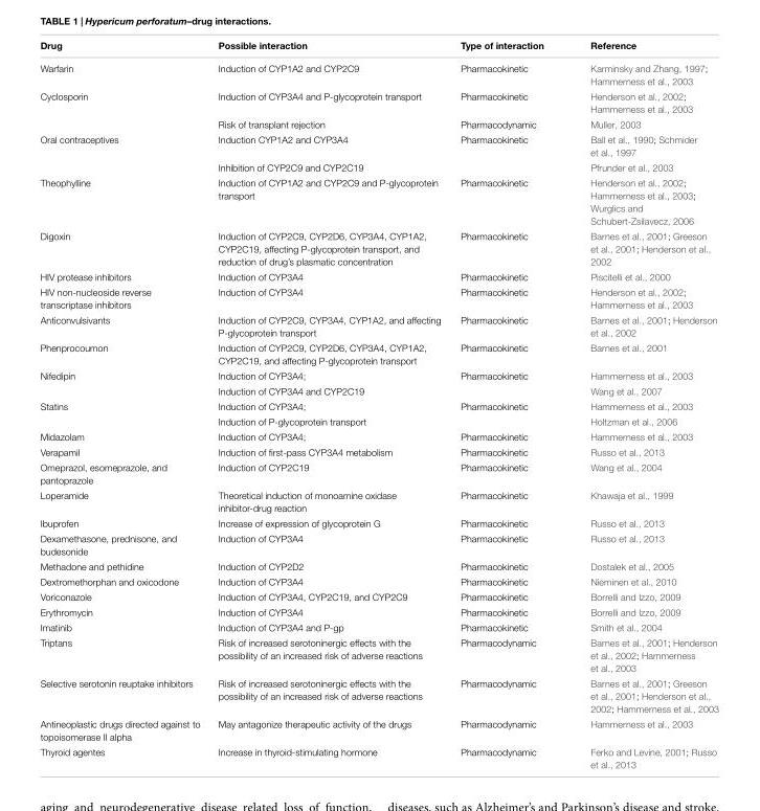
<table><thead><tr><td>Drug</td><td>Possible interaction</td><td>Type of interaction</td><td>Reference</td></tr></thead><tbody><tr><td>Warfarin</td><td>Induction of CYP1A2 and CYP2C9</td><td>Pharmacokinetic</td><td>Karminsky and Zhang, 1997; Hammerness et al., 2003</td></tr><tr><td rowspan="2">Cyclosporin</td><td>Induction of CYP3A4 and P-glycoprotein transport</td><td>Pharmacokinetic</td><td>Henderson et al., 2002; Hammerness et al., 2003</td></tr><tr><td>Risk of transplant rejection</td><td>Pharmacodynamic</td><td>Muller, 2003</td></tr><tr><td rowspan="2">Oral contraceptives</td><td>Induction CYP1A2 and CYP3A4</td><td>Pharmacokinetic</td><td>Ball et al., 1990; Schmider et al., 1997</td></tr><tr><td>Inhibition of CYP2C9 and CYP2C19</td><td></td><td>Pfrunder et al., 2003</td></tr><tr><td>Theophylline</td><td>Induction of CYP1A2 and CYP2C9 and P-glycoprotein transport</td><td>Pharmacokinetic</td><td>Henderson et al., 2002; Hammerness et al., 2003; Wurglics and Schubert-Zsilavecz, 2006</td></tr><tr><td>Digoxin</td><td>Induction of CYP2C9, CYP2D6, CYP3A4, CYP1A2, CYP2C19, affecting P-glycoprotein transport, and reduction of drug’s plasmatic concentration</td><td>Pharmacokinetic</td><td>Barnes et al., 2001; Greeson et al., 2001; Henderson et al., 2002</td></tr><tr><td>HIV protease inhibitors</td><td>Induction of CYP3A4</td><td>Pharmacokinetic</td><td>Piscitelli et al., 2000</td></tr><tr><td>HIV non-nucleoside reverse transcriptase inhibitors</td><td>Induction of CYP3A4</td><td>Pharmacokinetic</td><td>Henderson et al., 2002; Hammerness et al., 2003</td></tr><tr><td>Anticonvulsivants</td><td>Induction of CYP2C9, CYP3A4, CYP1A2, and affecting P-glycoprotein transport</td><td>Pharmacokinetic</td><td>Barnes et al., 2001; Henderson et al., 2002</td></tr><tr><td>Phenprocoumon</td><td>Induction of CYP2C9, CYP2D6, CYP3A4, CYP1A2, CYP2C19, and affecting P-glycoprotein transport</td><td>Pharmacokinetic</td><td>Barnes et al., 2001</td></tr><tr><td rowspan="2">Nifedipin</td><td>Induction of CYP3A4;</td><td>Pharmacokinetic</td><td>Hammerness et al., 2003</td></tr><tr><td>Induction of CYP3A4 and CYP2C19</td><td></td><td>Wang et al., 2007</td></tr><tr><td rowspan="2">Statins</td><td>Induction of CYP3A4;</td><td>Pharmacokinetic</td><td>Hammerness et al., 2003</td></tr><tr><td>Induction of P-glycoprotein transport</td><td></td><td>Holtzman et al., 2006</td></tr><tr><td>Midazolam</td><td>Induction of CYP3A4;</td><td>Pharmacokinetic</td><td>Hammerness et al., 2003</td></tr><tr><td>Verapamil</td><td>Induction of first-pass CYP3A4 metabolism</td><td>Pharmacokinetic</td><td>Russo et al., 2013</td></tr><tr><td>Omeprazol, esomeprazole, and pantoprazole</td><td>Induction of CYP2C19</td><td>Pharmacokinetic</td><td>Wang et al., 2004</td></tr><tr><td>Loperamide</td><td>Theoretical induction of monoamine oxidase inhibitor-drug reaction</td><td>Pharmacokinetic</td><td>Khawaja et al., 1999</td></tr><tr><td>Ibuprofen</td><td>Increase of expression of glycoprotein G</td><td>Pharmacokinetic</td><td>Russo et al., 2013</td></tr><tr><td>Dexamethasone, prednisone, and budesonide</td><td>Induction of CYP3A4</td><td>Pharmacokinetic</td><td>Russo et al., 2013</td></tr><tr><td>Methadone and pethidine</td><td>Induction of CYP2D2</td><td>Pharmacokinetic</td><td>Dostalek et al., 2005</td></tr><tr><td>Dextromethorphan and oxicodone</td><td>Induction of CYP3A4</td><td>Pharmacokinetic</td><td>Nieminen et al., 2010</td></tr><tr><td>Voriconazole</td><td>Induction of CYP3A4, CYP2C19, and CYP2C9</td><td>Pharmacokinetic</td><td>Borrelli and Izzo, 2009</td></tr><tr><td>Erythromycin</td><td>Induction of CYP3A4</td><td>Pharmacokinetic</td><td>Borrelli and Izzo, 2009</td></tr><tr><td>Imatinib</td><td>Induction of CYP3A4 and P-gp</td><td>Pharmacokinetic</td><td>Smith et al., 2004</td></tr><tr><td>Triptans</td><td>Risk of increased serotoninergic effects with the possibility of an increased risk of adverse reactions</td><td>Pharmacodynamic</td><td>Barnes et al., 2001; Henderson et al., 2002; Hammerness et al., 2003</td></tr><tr><td>Selective serotonin reuptake inhibitors</td><td>Risk of increased serotoninergic effects with the possibility of an increased risk of adverse reactions</td><td>Pharmacodynamic</td><td>Barnes et al., 2001; Greeson et al., 2001; Henderson et al., 2002; Hammerness et al., 2003</td></tr><tr><td>Antineoplastic drugs directed against to topoisomerase II alpha</td><td>May antagonize therapeutic activity of the drugs</td><td>Pharmacodynamic</td><td>Hammerness et al., 2003</td></tr><tr><td>Thyroid agentes</td><td>Increase in thyroid-stimulating hormone</td><td>Pharmacodynamic</td><td>Ferko and Levine, 2001; Russo et al., 2013</td></tr></tbody></table>